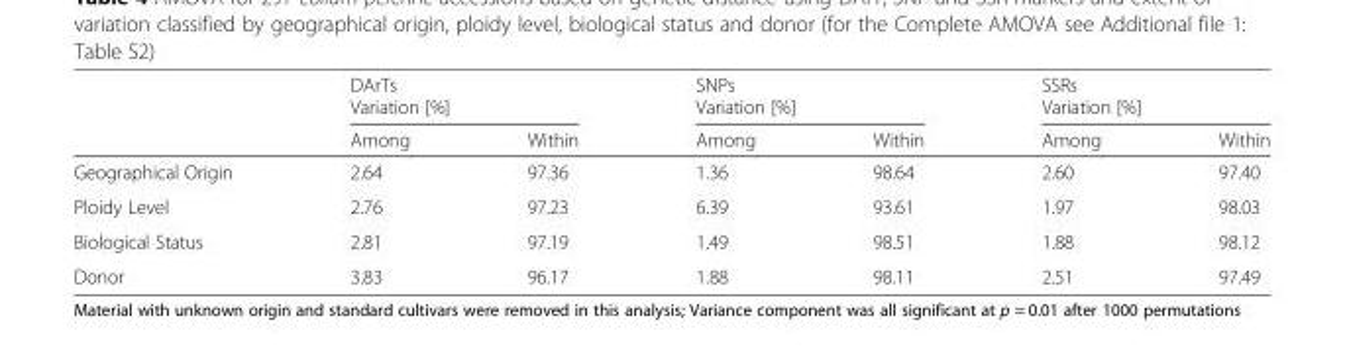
<table><thead><tr><td rowspan="3"></td><td rowspan="2" colspan="2">DArTs Variation [%]</td><td rowspan="2" colspan="2">SNPs Variation [%]</td><td rowspan="2" colspan="2">SSRs Variation [%]</td></tr><tr></tr><tr><td>Among</td><td>Within</td><td>Among</td><td>Within</td><td>Among</td><td>Within</td></tr></thead><tbody><tr><td>Geographical Origin</td><td>2.64</td><td>97.36</td><td>1.36</td><td>98.64</td><td>2.60</td><td>97.40</td></tr><tr><td>Ploidy Level</td><td>2.76</td><td>97.23</td><td>6.39</td><td>93.61</td><td>1.97</td><td>98.03</td></tr><tr><td>Biological Status</td><td>2.81</td><td>97.19</td><td>1.49</td><td>98.51</td><td>1.88</td><td>98.12</td></tr><tr><td>Donor</td><td>3.83</td><td>96.17</td><td>1.88</td><td>98.11</td><td>2.51</td><td>97.49</td></tr></tbody></table>